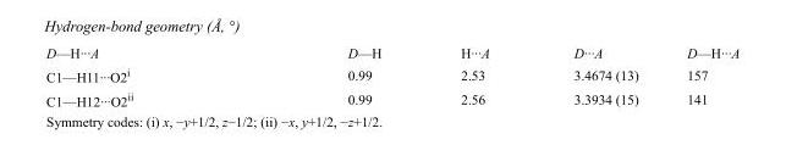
<table><tbody><tr><td>D—H···A</td><td>D—H</td><td>H···A</td><td>D···A</td><td>D—H···A</td></tr><tr><td>C1—H11···O2<sup>i</sup></td><td>0.99</td><td>2.53</td><td>3.4674 (13)</td><td>157</td></tr><tr><td>C1—H12···O2<sup>ii</sup></td><td>0.99</td><td>2.56</td><td>3.3934 (15)</td><td>141</td></tr></tbody></table>